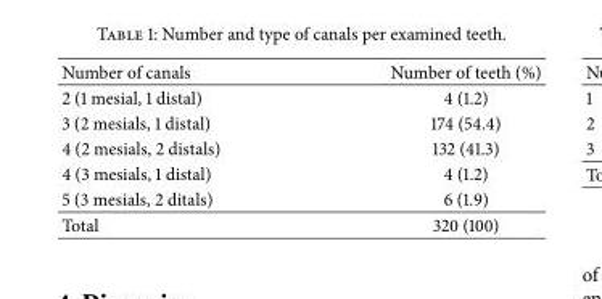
<table><thead><tr><td>Number of canals</td><td>Number of teeth (%)</td></tr></thead><tbody><tr><td>2 (1 mesial, 1 distal)</td><td>4 (1.2)</td></tr><tr><td>3 (2 mesials, 1 distal)</td><td>174 (54.4)</td></tr><tr><td>4 (2 mesials, 2 distals)</td><td>132 (41.3)</td></tr><tr><td>4 (3 mesials, 1 distal)</td><td>4 (1.2)</td></tr><tr><td>5 (3 mesials, 2 ditals)</td><td>6 (1.9)</td></tr><tr><td>Total</td><td>320 (100)</td></tr></tbody></table>